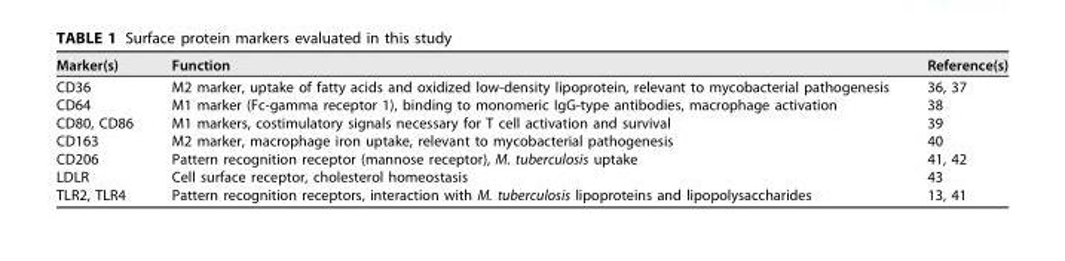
<table><thead><tr><td>Marker(s)</td><td>Function</td><td>Reference(s)</td></tr></thead><tbody><tr><td>CD36</td><td>M2 marker, uptake of fatty acids and oxidized low-density lipoprotein, relevant to mycobacterial pathogenesis</td><td>36, 37</td></tr><tr><td>CD64</td><td>M1 marker (Fc-gamma receptor 1), binding to monomeric IgG-type antibodies, macrophage activation</td><td>38</td></tr><tr><td>CD80, CD86</td><td>M1 markers, costimulatory signals necessary for T cell activation and survival</td><td>39</td></tr><tr><td>CD163</td><td>M2 marker, macrophage iron uptake, relevant to mycobacterial pathogenesis</td><td>40</td></tr><tr><td>CD206</td><td>Pattern recognition receptor (mannose receptor), M. tuberculosis uptake</td><td>41, 42</td></tr><tr><td>LDLR</td><td>Cell surface receptor, cholesterol homeostasis</td><td>43</td></tr><tr><td>TLR2, TLR4</td><td>Pattern recognition receptors, interaction with M. tuberculosis lipoproteins and lipopolysaccharides</td><td>13, 41</td></tr></tbody></table>